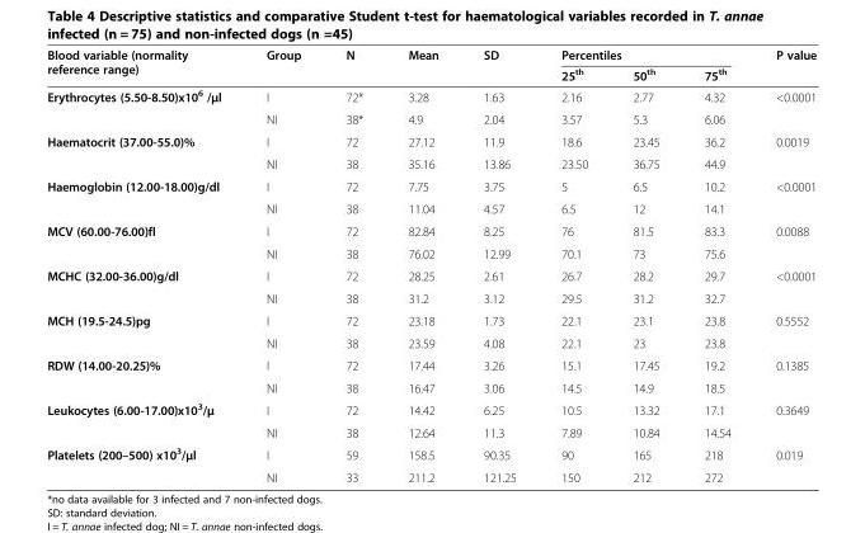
<table><thead><tr><td rowspan="2">Blood variable (normality reference range)</td><td rowspan="2">Group</td><td rowspan="2">N</td><td rowspan="2">Mean</td><td rowspan="2">SD</td><td colspan="3">Percentiles</td><td rowspan="2">P value</td></tr><tr><td>25<sup>th</sup></td><td>50<sup>th</sup></td><td>75<sup>th</sup></td></tr></thead><tbody><tr><td rowspan="2">Erythrocytes (5.50-8.50)x10<sup>6</sup> /μl</td><td>I</td><td>72*</td><td>3.28</td><td>1.63</td><td>2.16</td><td>2.77</td><td>4.32</td><td rowspan="2">&lt;0.0001</td></tr><tr><td>NI</td><td>38*</td><td>4.9</td><td>2.04</td><td>3.57</td><td>5.3</td><td>6.06</td></tr><tr><td rowspan="2">Haematocrit (37.00-55.0)%</td><td>I</td><td>72</td><td>27.12</td><td>11.9</td><td>18.6</td><td>23.45</td><td>36.2</td><td rowspan="2">0.0019</td></tr><tr><td>NI</td><td>38</td><td>35.16</td><td>13.86</td><td>23.50</td><td>36.75</td><td>44.9</td></tr><tr><td rowspan="2">Haemoglobin (12.00-18.00)g/dl</td><td>I</td><td>72</td><td>7.75</td><td>3.75</td><td>5</td><td>6.5</td><td>10.2</td><td rowspan="2">&lt;0.0001</td></tr><tr><td>NI</td><td>38</td><td>11.04</td><td>4.57</td><td>6.5</td><td>12</td><td>14.1</td></tr><tr><td rowspan="2">MCV (60.00-76.00)fl</td><td>I</td><td>72</td><td>82.84</td><td>8.25</td><td>76</td><td>81.5</td><td>83.3</td><td rowspan="2">0.0088</td></tr><tr><td>NI</td><td>38</td><td>76.02</td><td>12.99</td><td>70.1</td><td>73</td><td>75.6</td></tr><tr><td rowspan="2">MCHC (32.00-36.00)g/dl</td><td>I</td><td>72</td><td>28.25</td><td>2.61</td><td>26.7</td><td>28.2</td><td>29.7</td><td rowspan="2">&lt;0.0001</td></tr><tr><td>NI</td><td>38</td><td>31.2</td><td>3.12</td><td>29.5</td><td>31.2</td><td>32.7</td></tr><tr><td rowspan="2">MCH (19.5-24.5)pg</td><td>I</td><td>72</td><td>23.18</td><td>1.73</td><td>22.1</td><td>23.1</td><td>23.8</td><td rowspan="2">0.5552</td></tr><tr><td>NI</td><td>38</td><td>23.59</td><td>4.08</td><td>22.1</td><td>23</td><td>23.8</td></tr><tr><td rowspan="2">RDW (14.00-20.25)%</td><td>I</td><td>72</td><td>17.44</td><td>3.26</td><td>15.1</td><td>17.45</td><td>19.2</td><td rowspan="2">0.1385</td></tr><tr><td>NI</td><td>38</td><td>16.47</td><td>3.06</td><td>14.5</td><td>14.9</td><td>18.5</td></tr><tr><td rowspan="2">Leukocytes (6.00-17.00)x10<sup>3</sup>/μ</td><td>I</td><td>72</td><td>14.42</td><td>6.25</td><td>10.5</td><td>13.32</td><td>17.1</td><td rowspan="2">0.3649</td></tr><tr><td>NI</td><td>38</td><td>12.64</td><td>11.3</td><td>7.89</td><td>10.84</td><td>14.54</td></tr><tr><td rowspan="2">Platelets (200–500) x10<sup>3</sup>/μl</td><td>I</td><td>59</td><td>158.5</td><td>90.35</td><td>90</td><td>165</td><td>218</td><td rowspan="2">0.019</td></tr><tr><td>NI</td><td>33</td><td>211.2</td><td>121.25</td><td>150</td><td>212</td><td>272</td></tr></tbody></table>